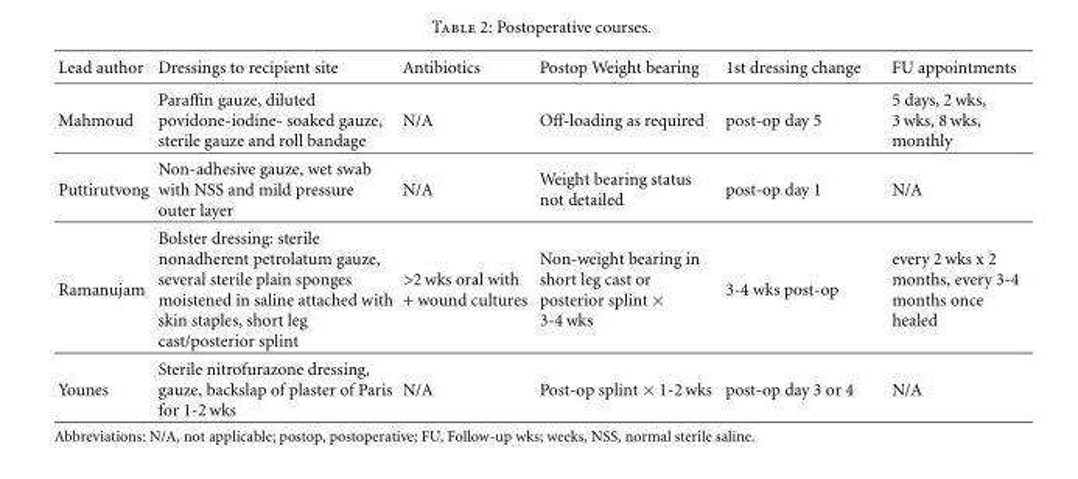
<table><thead><tr><td>Lead author</td><td>Dressings to recipient site</td><td>Antibiotics</td><td>Postop Weight bearing</td><td>1st dressing change</td><td>FU appointments</td></tr></thead><tbody><tr><td>Mahmoud</td><td>Paraffin gauze, diluted povidone-iodine- soaked gauze, sterile gauze and roll bandage</td><td>N/A</td><td>Off-loading as required</td><td>post-op day 5</td><td>5 days, 2 wks, 3 wks, 8 wks, monthly</td></tr><tr><td>Puttirutvong</td><td>Non-adhesive gauze, wet swab with NSS and mild pressure outer layer</td><td>N/A</td><td>Weight bearing status not detailed</td><td>post-op day 1</td><td>N/A</td></tr><tr><td>Ramanujam</td><td>Bolster dressing: sterile nonadherent petrolatum gauze, several sterile plain sponges moistened in saline attached with skin staples, short leg cast/posterior splint</td><td>&gt;2 wks oral with + wound cultures</td><td>Non-weight bearing in short leg cast or posterior splint × 3-4 wks</td><td>3-4 wks post-op</td><td>every 2 wks x 2 months, every 3-4 months once healed</td></tr><tr><td>Younes</td><td>Sterile nitrofurazone dressing, gauze, backslap of plaster of Paris for 1-2 wks</td><td>N/A</td><td>Post-op splint × 1-2 wks</td><td>post-op day 3 or 4</td><td>N/A</td></tr></tbody></table>